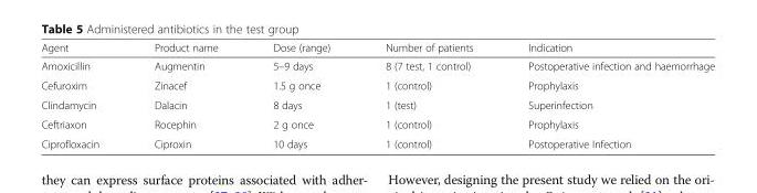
<table><thead><tr><td>Agent</td><td>Product name</td><td>Dose (range)</td><td>Number of patients</td><td>Indication</td></tr></thead><tbody><tr><td>Amoxicillin</td><td>Augmentin</td><td>5–9 days</td><td>8 (7 test, 1 control)</td><td>Postoperative infection and haemorrhage</td></tr><tr><td>Cefuroxim</td><td>Zinacef</td><td>1.5 g once</td><td>1 (control)</td><td>Prophylaxis</td></tr><tr><td>Clindamycin</td><td>Dalacin</td><td>8 days</td><td>1 (test)</td><td>Superinfection</td></tr><tr><td>Ceftriaxon</td><td>Rocephin</td><td>2 g once</td><td>1 (control)</td><td>Prophylaxis</td></tr><tr><td>Ciprofloxacin</td><td>Ciproxin</td><td>10 days</td><td>1 (control)</td><td>Postoperative Infection</td></tr></tbody></table>